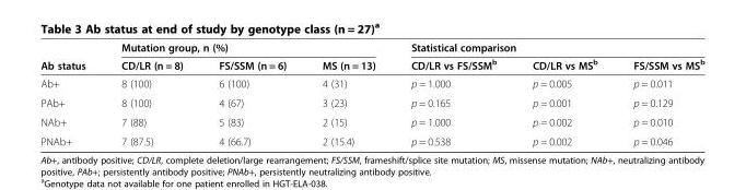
<table><thead><tr><td rowspan="2">Ab status</td><td colspan="3">Mutation group, n (%)</td><td colspan="3">Statistical comparison</td></tr><tr><td>CD/LR (n = 8)</td><td>FS/SSM (n = 6)</td><td>MS (n = 13)</td><td>CD/LR vs FS/SSM<sup>b</sup></td><td>CD/LR vs MS<sup>b</sup></td><td>FS/SSM vs MS<sup>b</sup></td></tr></thead><tbody><tr><td>Ab+</td><td>8 (100)</td><td>6 (100)</td><td>4 (31)</td><td>p = 1.000</td><td>p = 0.005</td><td>p = 0.011</td></tr><tr><td>PAb+</td><td>8 (100)</td><td>4 (67)</td><td>3 (23)</td><td>p = 0.165</td><td>p = 0.001</td><td>p = 0.129</td></tr><tr><td>NAb+</td><td>7 (88)</td><td>5 (83)</td><td>2 (15)</td><td>p = 1.000</td><td>p = 0.002</td><td>p = 0.010</td></tr><tr><td>PNAb+</td><td>7 (87.5)</td><td>4 (66.7)</td><td>2 (15.4)</td><td>p = 0.538</td><td>p = 0.002</td><td>p = 0.046</td></tr></tbody></table>